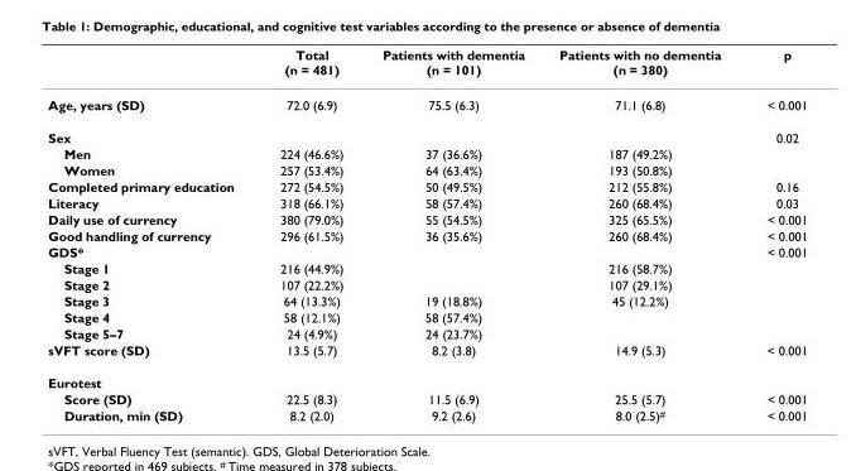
<table><thead><tr><td></td><td>Total (n = 481)</td><td>Patients with dementia (n = 101)</td><td>Patients with no dementia (n = 380)</td><td>p</td></tr></thead><tbody><tr><td>Age, years (SD)</td><td>72.0 (6.9)</td><td>75.5 (6.3)</td><td>71.1 (6.8)</td><td>&lt; 0.001</td></tr><tr><td>Sex</td><td></td><td></td><td></td><td>0.02</td></tr><tr><td>Men</td><td>224 (46.6%)</td><td>37 (36.6%)</td><td>187 (49.2%)</td><td></td></tr><tr><td>Women</td><td>257 (53.4%)</td><td>64 (63.4%)</td><td>193 (50.8%)</td><td></td></tr><tr><td>Completed primary education</td><td>272 (54.5%)</td><td>50 (49.5%)</td><td>212 (55.8%)</td><td>0.16</td></tr><tr><td>Literacy</td><td>318 (66.1%)</td><td>58 (57.4%)</td><td>260 (68.4%)</td><td>0.03</td></tr><tr><td>Daily use of currency</td><td>380 (79.0%)</td><td>55 (54.5%)</td><td>325 (65.5%)</td><td>&lt; 0.001</td></tr><tr><td>Good handling of currency</td><td>296 (61.5%)</td><td>36 (35.6%)</td><td>260 (68.4%)</td><td>&lt; 0.001</td></tr><tr><td>GDS*</td><td></td><td></td><td></td><td>&lt; 0.001</td></tr><tr><td>Stage 1</td><td>216 (44.9%)</td><td></td><td>216 (58.7%)</td><td></td></tr><tr><td>Stage 2</td><td>107 (22.2%)</td><td></td><td>107 (29.1%)</td><td></td></tr><tr><td>Stage 3</td><td>64 (13.3%)</td><td>19 (18.8%)</td><td>45 (12.2%)</td><td></td></tr><tr><td>Stage 4</td><td>58 (12.1%)</td><td>58 (57.4%)</td><td></td><td></td></tr><tr><td>Stage 5–7</td><td>24 (4.9%)</td><td>24 (23.7%)</td><td></td><td></td></tr><tr><td>sVFT score (SD)</td><td>13.5 (5.7)</td><td>8.2 (3.8)</td><td>14.9 (5.3)</td><td>&lt; 0.001</td></tr><tr><td colspan="5">Eurotest</td></tr><tr><td>Score (SD)</td><td>22.5 (8.3)</td><td>11.5 (6.9)</td><td>25.5 (5.7)</td><td>&lt; 0.001</td></tr><tr><td>Duration, min (SD)</td><td>8.2 (2.0)</td><td>9.2 (2.6)</td><td>8.0 (2.5)#</td><td>&lt; 0.001</td></tr></tbody></table>